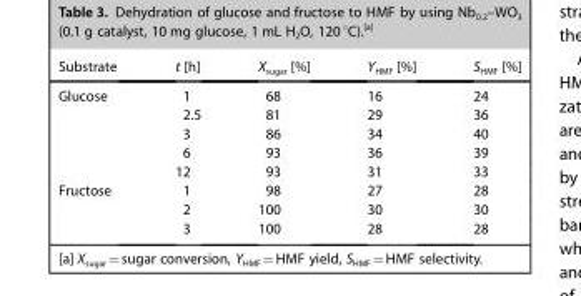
<table><thead><tr><td>Substrate</td><td>t [h]</td><td>X<sub>sugar</sub> [%]</td><td>Y<sub>HMF</sub> [%]</td><td>S<sub>HMF</sub> [%]</td></tr></thead><tbody><tr><td rowspan="5">Glucose</td><td>1</td><td>68</td><td>16</td><td>24</td></tr><tr><td>2.5</td><td>81</td><td>29</td><td>36</td></tr><tr><td>3</td><td>86</td><td>34</td><td>40</td></tr><tr><td>6</td><td>93</td><td>36</td><td>39</td></tr><tr><td>12</td><td>93</td><td>31</td><td>33</td></tr><tr><td rowspan="3">Fructose</td><td>1</td><td>98</td><td>27</td><td>28</td></tr><tr><td>2</td><td>100</td><td>30</td><td>30</td></tr><tr><td>3</td><td>100</td><td>28</td><td>28</td></tr></tbody></table>